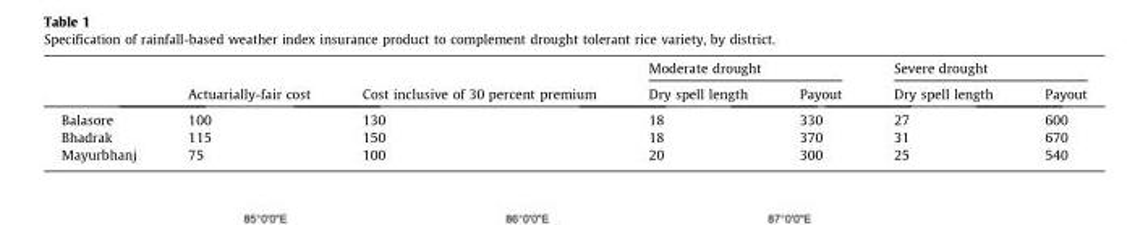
<table><thead><tr><td rowspan="2"></td><td rowspan="2">Actuarially-fair cost</td><td rowspan="2">Cost inclusive of 30 percent premium</td><td colspan="2">Moderate drought</td><td colspan="2">Severe drought</td></tr><tr><td>Dry spell length</td><td>Payout</td><td>Dry spell length</td><td>Payout</td></tr></thead><tbody><tr><td>Balasore</td><td>100</td><td>130</td><td>18</td><td>330</td><td>27</td><td>600</td></tr><tr><td>Bhadrak</td><td>115</td><td>150</td><td>18</td><td>370</td><td>31</td><td>670</td></tr><tr><td>Mayurbhanj</td><td>75</td><td>100</td><td>20</td><td>300</td><td>25</td><td>540</td></tr></tbody></table>